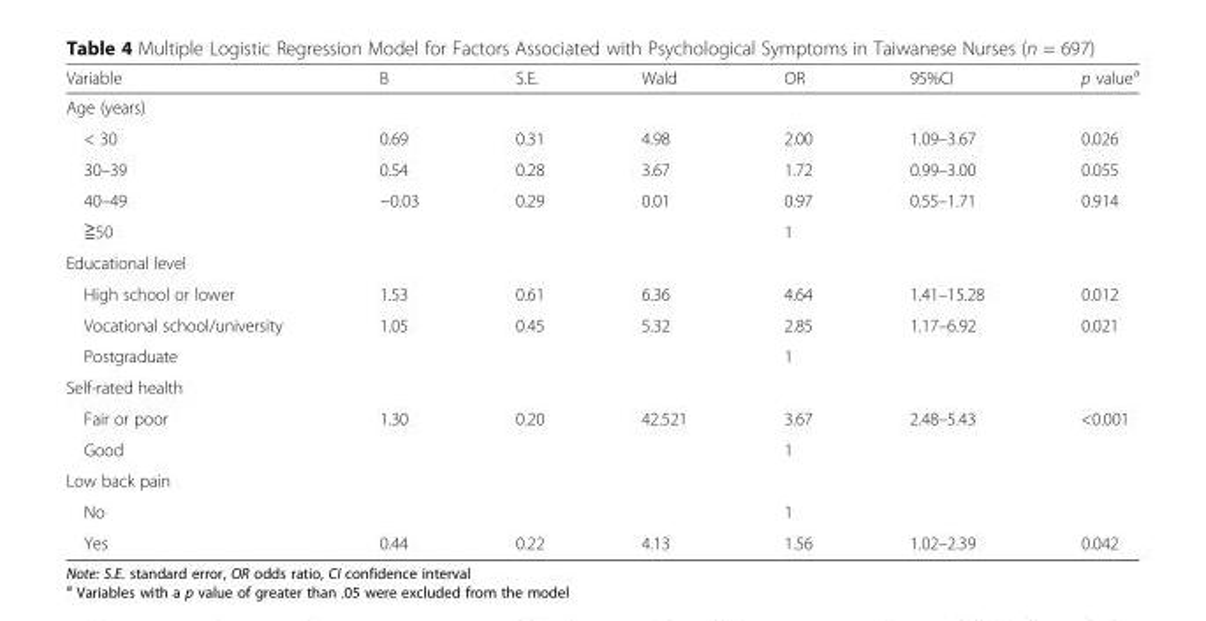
<table><thead><tr><td>Variable</td><td>B</td><td>S.E.</td><td>Wald</td><td>OR</td><td>95%CI</td><td>p value<sup>a</sup></td></tr></thead><tbody><tr><td colspan="7">Age (years)</td></tr><tr><td>&lt; 30</td><td>0.69</td><td>0.31</td><td>4.98</td><td>2.00</td><td>1.09–3.67</td><td>0.026</td></tr><tr><td>30–39</td><td>0.54</td><td>0.28</td><td>3.67</td><td>1.72</td><td>0.99–3.00</td><td>0.055</td></tr><tr><td>40–49</td><td>−0.03</td><td>0.29</td><td>0.01</td><td>0.97</td><td>0.55–1.71</td><td>0.914</td></tr><tr><td>≧50</td><td></td><td></td><td></td><td>1</td><td></td><td></td></tr><tr><td colspan="7">Educational level</td></tr><tr><td>High school or lower</td><td>1.53</td><td>0.61</td><td>6.36</td><td>4.64</td><td>1.41–15.28</td><td>0.012</td></tr><tr><td>Vocational school/university</td><td>1.05</td><td>0.45</td><td>5.32</td><td>2.85</td><td>1.17–6.92</td><td>0.021</td></tr><tr><td>Postgraduate</td><td></td><td></td><td></td><td>1</td><td></td><td></td></tr><tr><td colspan="7">Self-rated health</td></tr><tr><td>Fair or poor</td><td>1.30</td><td>0.20</td><td>42.521</td><td>3.67</td><td>2.48–5.43</td><td>&lt;0.001</td></tr><tr><td>Good</td><td></td><td></td><td></td><td>1</td><td></td><td></td></tr><tr><td colspan="7">Low back pain</td></tr><tr><td>No</td><td></td><td></td><td></td><td>1</td><td></td><td></td></tr><tr><td>Yes</td><td>0.44</td><td>0.22</td><td>4.13</td><td>1.56</td><td>1.02–2.39</td><td>0.042</td></tr></tbody></table>